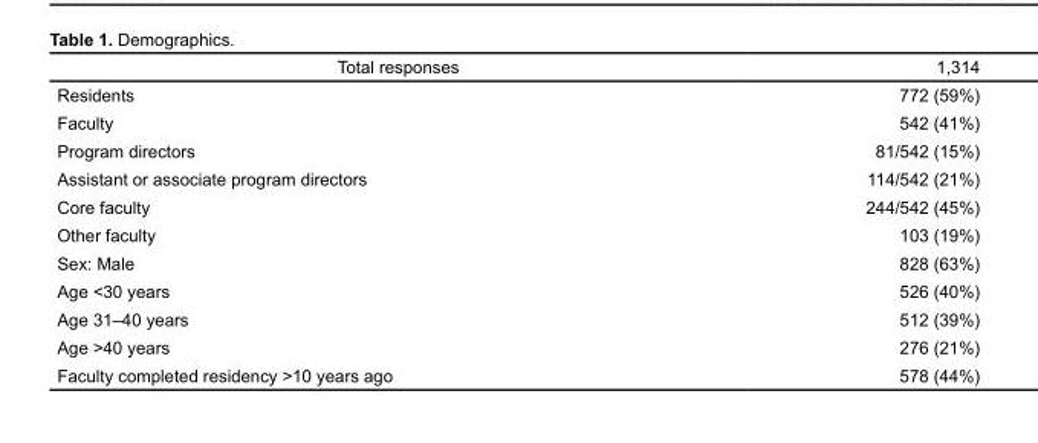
<table><thead><tr><td>Total responses</td><td>1,314</td></tr></thead><tbody><tr><td>Residents</td><td>772 (59%)</td></tr><tr><td>Faculty</td><td>542 (41%)</td></tr><tr><td>Program directors</td><td>81/542 (15%)</td></tr><tr><td>Assistant or associate program directors</td><td>114/542 (21%)</td></tr><tr><td>Core faculty</td><td>244/542 (45%)</td></tr><tr><td>Other faculty</td><td>103 (19%)</td></tr><tr><td>Sex: Male</td><td>828 (63%)</td></tr><tr><td>Age &lt;30 years</td><td>526 (40%)</td></tr><tr><td>Age 31–40 years</td><td>512 (39%)</td></tr><tr><td>Age &gt;40 years</td><td>276 (21%)</td></tr><tr><td>Faculty completed residency &gt;10 years ago</td><td>578 (44%)</td></tr></tbody></table>